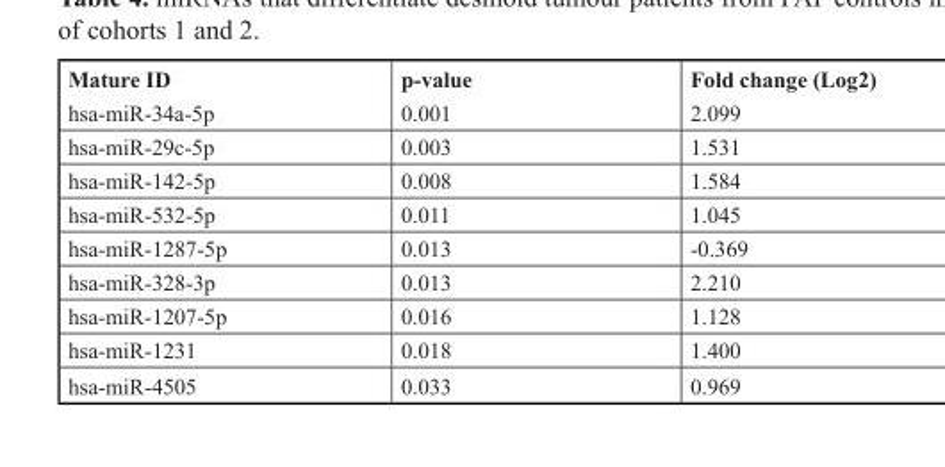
<table><thead><tr><td>Mature ID</td><td>p-value</td><td>Fold change (Log2)</td></tr></thead><tbody><tr><td>hsa-miR-34a-5p</td><td>0.001</td><td>2.099</td></tr><tr><td>hsa-miR-29c-5p</td><td>0.003</td><td>1.531</td></tr><tr><td>hsa-miR-142-5p</td><td>0.008</td><td>1.584</td></tr><tr><td>hsa-miR-532-5p</td><td>0.011</td><td>1.045</td></tr><tr><td>hsa-miR-1287-5p</td><td>0.013</td><td>-0.369</td></tr><tr><td>hsa-miR-328-3p</td><td>0.013</td><td>2.210</td></tr><tr><td>hsa-miR-1207-5p</td><td>0.016</td><td>1.128</td></tr><tr><td>hsa-miR-1231</td><td>0.018</td><td>1.400</td></tr><tr><td>hsa-miR-4505</td><td>0.033</td><td>0.969</td></tr></tbody></table>